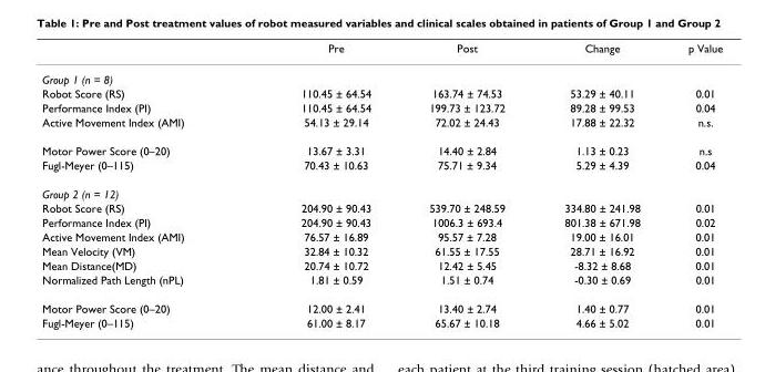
<table><thead><tr><td></td><td>Pre</td><td>Post</td><td>Change</td><td>p Value</td></tr></thead><tbody><tr><td colspan="5">Group 1 (n = 8)</td></tr><tr><td>Robot Score (RS)</td><td>110.45 ± 64.54</td><td>163.74 ± 74.53</td><td>53.29 ± 40.11</td><td>0.01</td></tr><tr><td>Performance Index (PI)</td><td>110.45 ± 64.54</td><td>199.73 ± 123.72</td><td>89.28 ± 99.53</td><td>0.04</td></tr><tr><td>Active Movement Index (AMI)</td><td>54.13 ± 29.14</td><td>72.02 ± 24.43</td><td>17.88 ± 22.32</td><td>n.s.</td></tr><tr><td>Motor Power Score (0–20)</td><td>13.67 ± 3.31</td><td>14.40 ± 2.84</td><td>1.13 ± 0.23</td><td>n.s</td></tr><tr><td>Fugl-Meyer (0–115)</td><td>70.43 ± 10.63</td><td>75.71 ± 9.34</td><td>5.29 ± 4.39</td><td>0.04</td></tr><tr><td colspan="5">Group 2 (n = 12)</td></tr><tr><td>Robot Score (RS)</td><td>204.90 ± 90.43</td><td>539.70 ± 248.59</td><td>334.80 ± 241.98</td><td>0.01</td></tr><tr><td>Performance Index (PI)</td><td>204.90 ± 90.43</td><td>1006.3 ± 693.4</td><td>801.38 ± 671.98</td><td>0.02</td></tr><tr><td>Active Movement Index (AMI)</td><td>76.57 ± 16.89</td><td>95.57 ± 7.28</td><td>19.00 ± 16.01</td><td>0.01</td></tr><tr><td>Mean Velocity (VM)</td><td>32.84 ± 10.32</td><td>61.55 ± 17.55</td><td>28.71 ± 16.92</td><td>0.01</td></tr><tr><td>Mean Distance(MD)</td><td>20.74 ± 10.72</td><td>12.42 ± 5.45</td><td>-8.32 ± 8.68</td><td>0.01</td></tr><tr><td>Normalized Path Length (nPL)</td><td>1.81 ± 0.59</td><td>1.51 ± 0.74</td><td>-0.30 ± 0.69</td><td>0.01</td></tr><tr><td>Motor Power Score (0–20)</td><td>12.00 ± 2.41</td><td>13.40 ± 2.74</td><td>1.40 ± 0.77</td><td>0.01</td></tr><tr><td>Fugl-Meyer (0–115)</td><td>61.00 ± 8.17</td><td>65.67 ± 10.18</td><td>4.66 ± 5.02</td><td>0.01</td></tr></tbody></table>